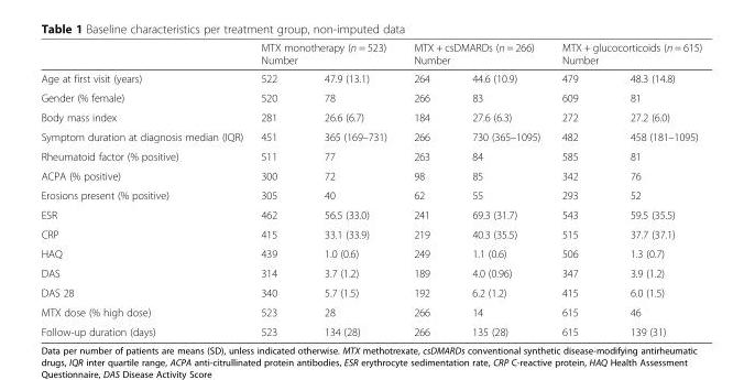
<table><thead><tr><td rowspan="2"></td><td colspan="2">MTX monotherapy (n = 523)</td><td colspan="2">MTX + csDMARDs (n = 266)</td><td colspan="2">MTX + glucocorticoids (n = 615)</td></tr><tr><td>Number</td><td></td><td>Number</td><td></td><td>Number</td><td></td></tr></thead><tbody><tr><td>Age at first visit (years)</td><td>522</td><td>47.9 (13.1)</td><td>264</td><td>44.6 (10.9)</td><td>479</td><td>48.3 (14.8)</td></tr><tr><td>Gender (% female)</td><td>520</td><td>78</td><td>266</td><td>83</td><td>609</td><td>81</td></tr><tr><td>Body mass index</td><td>281</td><td>26.6 (6.7)</td><td>184</td><td>27.6 (6.3)</td><td>272</td><td>27.2 (6.0)</td></tr><tr><td>Symptom duration at diagnosis median (IQR)</td><td>451</td><td>365 (169–731)</td><td>266</td><td>730 (365–1095)</td><td>482</td><td>458 (181–1095)</td></tr><tr><td>Rheumatoid factor (% positive)</td><td>511</td><td>77</td><td>263</td><td>84</td><td>585</td><td>81</td></tr><tr><td>ACPA (% positive)</td><td>300</td><td>72</td><td>98</td><td>85</td><td>342</td><td>76</td></tr><tr><td>Erosions present (% positive)</td><td>305</td><td>40</td><td>62</td><td>55</td><td>293</td><td>52</td></tr><tr><td>ESR</td><td>462</td><td>56.5 (33.0)</td><td>241</td><td>69.3 (31.7)</td><td>543</td><td>59.5 (35.5)</td></tr><tr><td>CRP</td><td>415</td><td>33.1 (33.9)</td><td>219</td><td>40.3 (35.5)</td><td>515</td><td>37.7 (37.1)</td></tr><tr><td>HAQ</td><td>439</td><td>1.0 (0.6)</td><td>249</td><td>1.1 (0.6)</td><td>506</td><td>1.3 (0.7)</td></tr><tr><td>DAS</td><td>314</td><td>3.7 (1.2)</td><td>189</td><td>4.0 (0.96)</td><td>347</td><td>3.9 (1.2)</td></tr><tr><td>DAS 28</td><td>340</td><td>5.7 (1.5)</td><td>192</td><td>6.2 (1.2)</td><td>415</td><td>6.0 (1.5)</td></tr><tr><td>MTX dose (% high dose)</td><td>523</td><td>28</td><td>266</td><td>14</td><td>615</td><td>46</td></tr><tr><td>Follow-up duration (days)</td><td>523</td><td>134 (28)</td><td>266</td><td>135 (28)</td><td>615</td><td>139 (31)</td></tr></tbody></table>